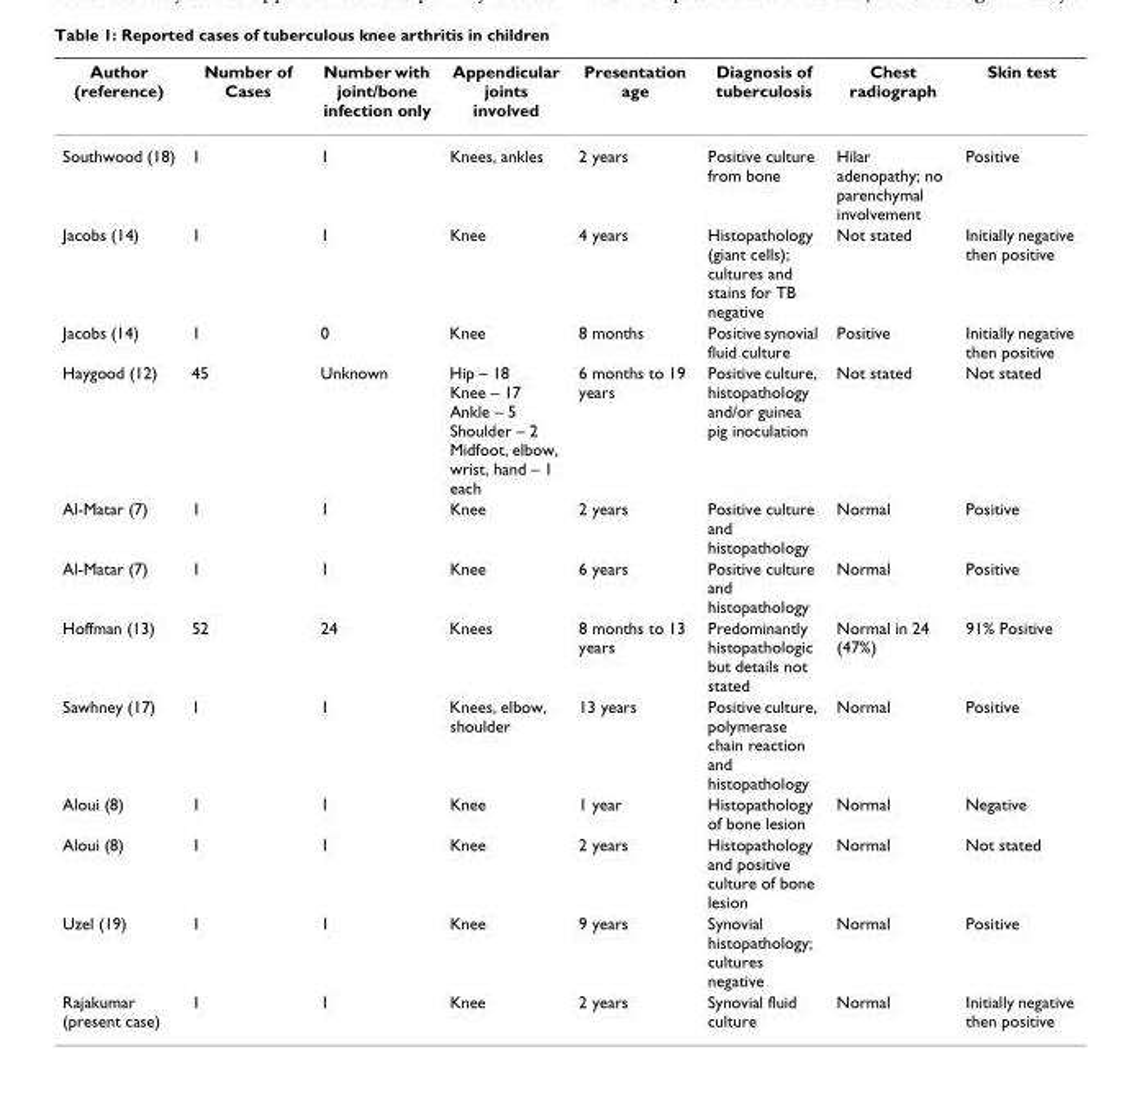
<table><thead><tr><td>Author (reference)</td><td>Number of Cases</td><td>Number with joint/bone infection only</td><td>Appendicular joints involved</td><td>Presentation age</td><td>Diagnosis of tuberculosis</td><td>Chest radiograph</td><td>Skin test</td></tr></thead><tbody><tr><td>Southwood (18)</td><td>1</td><td>1</td><td>Knees, ankles</td><td>2 years</td><td>Positive culture from bone</td><td>Hilar adenopathy; no parenchymal involvement</td><td>Positive</td></tr><tr><td>Jacobs (14)</td><td>1</td><td>1</td><td>Knee</td><td>4 years</td><td>Histopathology (giant cells); cultures and stains for TB negative</td><td>Not stated</td><td>Initially negative then positive</td></tr><tr><td>Jacobs (14)</td><td>1</td><td>0</td><td>Knee</td><td>8 months</td><td>Positive synovial fluid culture</td><td>Positive</td><td>Initially negative then positive</td></tr><tr><td>Haygood (12)</td><td>45</td><td>Unknown</td><td>Hip – 18 Knee – 17 Ankle – 5 Shoulder – 2 Midfoot, elbow, wrist, hand – 1 each</td><td>6 months to 19 years</td><td>Positive culture, histopathology and/or guinea pig inoculation</td><td>Not stated</td><td>Not stated</td></tr><tr><td>Al-Matar (7)</td><td>1</td><td>1</td><td>Knee</td><td>2 years</td><td>Positive culture and histopathology</td><td>Normal</td><td>Positive</td></tr><tr><td>Al-Matar (7)</td><td>1</td><td>1</td><td>Knee</td><td>6 years</td><td>Positive culture and histopathology</td><td>Normal</td><td>Positive</td></tr><tr><td>Hoffman (13)</td><td>52</td><td>24</td><td>Knees</td><td>8 months to 13 years</td><td>Predominantly histopathologic but details not stated</td><td>Normal in 24 (47%)</td><td>91% Positive</td></tr><tr><td>Sawhney (17)</td><td>1</td><td>1</td><td>Knees, elbow, shoulder</td><td>13 years</td><td>Positive culture, polymerase chain reaction and histopathology</td><td>Normal</td><td>Positive</td></tr><tr><td>Aloui (8)</td><td>1</td><td>1</td><td>Knee</td><td>1 year</td><td>Histopathology of bone lesion</td><td>Normal</td><td>Negative</td></tr><tr><td>Aloui (8)</td><td>1</td><td>1</td><td>Knee</td><td>2 years</td><td>Histopathology and positive culture of bone lesion</td><td>Normal</td><td>Not stated</td></tr><tr><td>Uzel (19)</td><td>1</td><td>1</td><td>Knee</td><td>9 years</td><td>Synovial histopathology; cultures negative</td><td>Normal</td><td>Positive</td></tr><tr><td>Rajakumar (present case)</td><td>1</td><td>1</td><td>Knee</td><td>2 years</td><td>Synovial fluid culture</td><td>Normal</td><td>Initially negative then positive</td></tr></tbody></table>